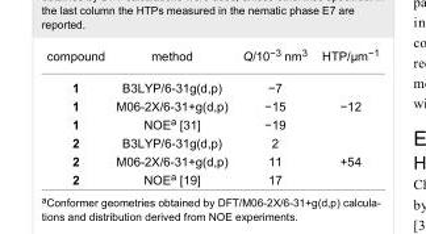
<table><tbody><tr><td>compound</td><td>method</td><td>Q/10<sup>−3</sup> nm<sup>3</sup></td><td>HTP/μm<sup>−1</sup></td></tr><tr><td>1</td><td>B3LYP/6-31g(d,p)</td><td>−7</td><td rowspan="3">−12</td></tr><tr><td>1</td><td>M06-2X/6-31+g(d,p)</td><td>−15</td></tr><tr><td>1</td><td>NOE<sup>a</sup> [31]</td><td>−19</td></tr><tr><td>2</td><td>B3LYP/6-31g(d,p)</td><td>2</td><td rowspan="3">+54</td></tr><tr><td>2</td><td>M06-2X/6-31+g(d,p)</td><td>11</td></tr><tr><td>2</td><td>NOE<sup>a</sup> [19]</td><td>17</td></tr></tbody></table>